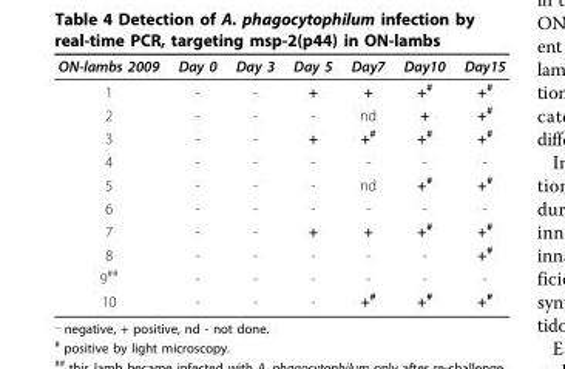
<table><thead><tr><td>ON-lambs 2009</td><td>Day 0</td><td>Day 3</td><td>Day 5</td><td>Day7</td><td>Day10</td><td>Day15</td></tr></thead><tbody><tr><td>1</td><td>-</td><td>-</td><td>+</td><td>+</td><td>+<sup>#</sup></td><td>+<sup>#</sup></td></tr><tr><td>2</td><td>-</td><td>-</td><td>-</td><td>nd</td><td>+</td><td>+<sup>#</sup></td></tr><tr><td>3</td><td>-</td><td>-</td><td>+</td><td>+<sup>#</sup></td><td>+<sup>#</sup></td><td>+<sup>#</sup></td></tr><tr><td>4</td><td>-</td><td>-</td><td>-</td><td>-</td><td>-</td><td>-</td></tr><tr><td>5</td><td>-</td><td>-</td><td>-</td><td>nd</td><td>+<sup>#</sup></td><td>+<sup>#</sup></td></tr><tr><td>6</td><td>-</td><td>-</td><td>-</td><td>-</td><td>-</td><td>-</td></tr><tr><td>7</td><td>-</td><td>-</td><td>+</td><td>+</td><td>+<sup>#</sup></td><td>+<sup>#</sup></td></tr><tr><td>8</td><td>-</td><td>-</td><td>-</td><td>-</td><td>-</td><td>+<sup>#</sup></td></tr><tr><td>9<sup>##</sup></td><td>-</td><td>-</td><td>-</td><td>-</td><td>-</td><td>-</td></tr><tr><td>10</td><td>-</td><td>-</td><td>-</td><td>+<sup>#</sup></td><td>+<sup>#</sup></td><td>+<sup>#</sup></td></tr></tbody></table>